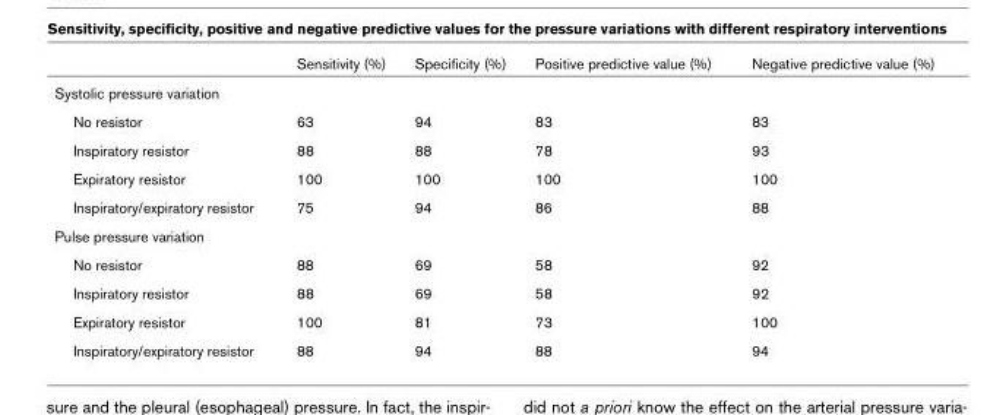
<table><thead><tr><td></td><td>Sensitivity (%)</td><td>Specificity (%)</td><td>Positive predictive value (%)</td><td>Negative predictive value (%)</td></tr></thead><tbody><tr><td colspan="5">Systolic pressure variation</td></tr><tr><td>No resistor</td><td>63</td><td>94</td><td>83</td><td>83</td></tr><tr><td>Inspiratory resistor</td><td>88</td><td>88</td><td>78</td><td>93</td></tr><tr><td>Expiratory resistor</td><td>100</td><td>100</td><td>100</td><td>100</td></tr><tr><td>Inspiratory/expiratory resistor</td><td>75</td><td>94</td><td>86</td><td>88</td></tr><tr><td colspan="5">Pulse pressure variation</td></tr><tr><td>No resistor</td><td>88</td><td>69</td><td>58</td><td>92</td></tr><tr><td>Inspiratory resistor</td><td>88</td><td>69</td><td>58</td><td>92</td></tr><tr><td>Expiratory resistor</td><td>100</td><td>81</td><td>73</td><td>100</td></tr><tr><td>Inspiratory/expiratory resistor</td><td>88</td><td>94</td><td>88</td><td>94</td></tr></tbody></table>